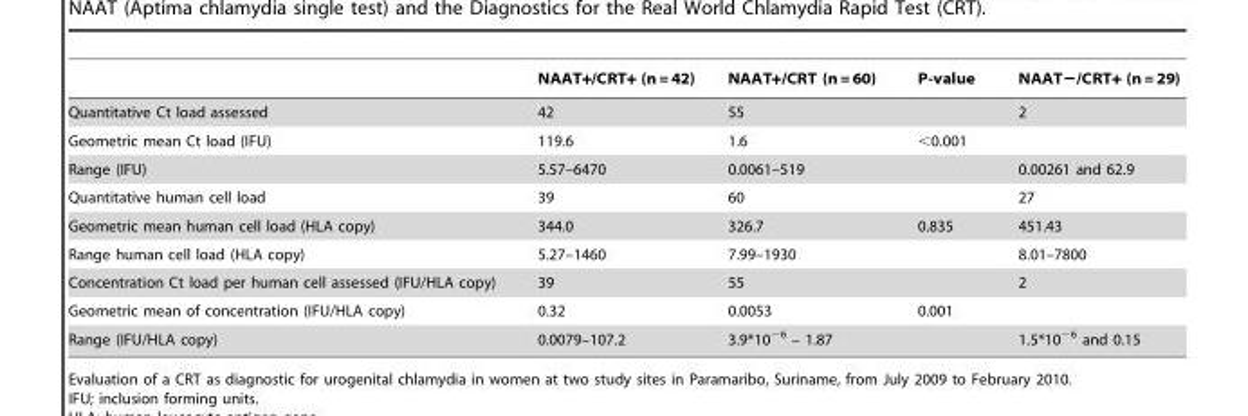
<table><thead><tr><td></td><td>NAAT+/CRT+ (n = 42)</td><td>NAAT+/CRT (n = 60)</td><td>P-value</td><td>NAAT−/CRT+ (n = 29)</td></tr></thead><tbody><tr><td>Quantitative Ct load assessed</td><td>42</td><td>55</td><td></td><td>2</td></tr><tr><td>Geometric mean Ct load (IFU)</td><td>119.6</td><td>1.6</td><td>&lt;0.001</td><td></td></tr><tr><td>Range (IFU)</td><td>5.57–6470</td><td>0.0061–519</td><td></td><td>0.00261 and 62.9</td></tr><tr><td>Quantitative human cell load</td><td>39</td><td>60</td><td></td><td>27</td></tr><tr><td>Geometric mean human cell load (HLA copy)</td><td>344.0</td><td>326.7</td><td>0.835</td><td>451.43</td></tr><tr><td>Range human cell load (HLA copy)</td><td>5.27–1460</td><td>7.99–1930</td><td></td><td>8.01–7800</td></tr><tr><td>Concentration Ct load per human cell assessed (IFU/HLA copy)</td><td>39</td><td>55</td><td></td><td>2</td></tr><tr><td>Geometric mean of concentration (IFU/HLA copy)</td><td>0.32</td><td>0.0053</td><td>0.001</td><td></td></tr><tr><td>Range (IFU/HLA copy)</td><td>0.0079–107.2</td><td>3.9*10<sup>−6</sup> – 1.87</td><td></td><td>1.5*10<sup>−6</sup> and 0.15</td></tr></tbody></table>